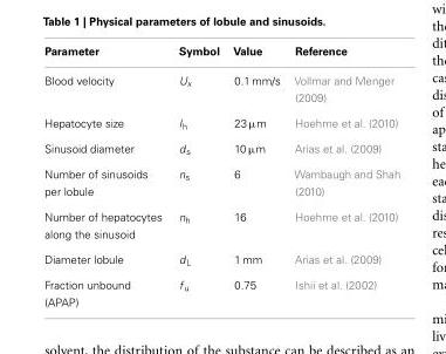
<table><thead><tr><td>Parameter</td><td>Symbol</td><td>Value</td><td>Reference</td></tr></thead><tbody><tr><td>Blood velocity</td><td>U<sub>x</sub></td><td>0.1 mm/s</td><td>Vollmar and Menger (2009)</td></tr><tr><td>Hepatocyte size</td><td>l<sub>h</sub></td><td>23 µm</td><td>Hoehme et al. (2010)</td></tr><tr><td>Sinusoid diameter</td><td>d<sub>s</sub></td><td>10 µm</td><td>Arias et al. (2009)</td></tr><tr><td>Number of sinusoids per lobule</td><td>n<sub>s</sub></td><td>6</td><td>Wambaugh and Shah (2010)</td></tr><tr><td>Number of hepatocytes along the sinusoid</td><td>n<sub>h</sub></td><td>16</td><td>Hoehme et al. (2010)</td></tr><tr><td>Diameter lobule</td><td>d<sub>L</sub></td><td>1 mm</td><td>Arias et al. (2009)</td></tr><tr><td>Fraction unbound (APAP)</td><td>f <sub>u</sub></td><td>0.75</td><td>Ishii et al. (2002)</td></tr></tbody></table>